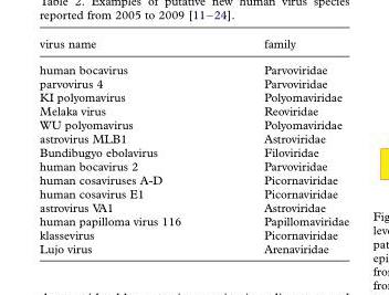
<table><thead><tr><td>virus name</td><td>family</td></tr></thead><tbody><tr><td>human bocavirus</td><td>Parvoviridae</td></tr><tr><td>parvovirus 4</td><td>Parvoviridae</td></tr><tr><td>KI polyomavirus</td><td>Polyomaviridae</td></tr><tr><td>Melaka virus</td><td>Reoviridae</td></tr><tr><td>WU polyomavirus</td><td>Polyomaviridae</td></tr><tr><td>astrovirus MLB1</td><td>Astroviridae</td></tr><tr><td>Bundibugyo ebolavirus</td><td>Filoviridae</td></tr><tr><td>human bocavirus 2</td><td>Parvoviridae</td></tr><tr><td>human cosaviruses A-D</td><td>Picornaviridae</td></tr><tr><td>human cosavirus E1</td><td>Picornaviridae</td></tr><tr><td>astrovirus VA1</td><td>Astroviridae</td></tr><tr><td>human papilloma virus 116</td><td>Papillomaviridae</td></tr><tr><td>klassevirus</td><td>Picornaviridae</td></tr><tr><td>Lujo virus</td><td>Arenaviridae</td></tr></tbody></table>